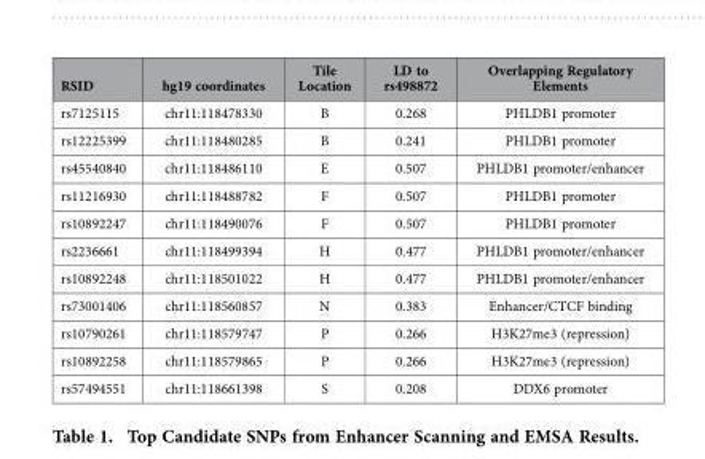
<table><thead><tr><td>RSID</td><td>hg19 coordinates</td><td>Tile Location</td><td>LD to rs498872</td><td>Overlapping Regulatory Elements</td></tr></thead><tbody><tr><td>rs7125115</td><td>chr11:118478330</td><td>B</td><td>0.268</td><td>PHLDB1 promoter</td></tr><tr><td>rs12225399</td><td>chr11:118480285</td><td>B</td><td>0.241</td><td>PHLDB1 promoter</td></tr><tr><td>rs45540840</td><td>chr11:118486110</td><td>E</td><td>0.507</td><td>PHLDB1 promoter/enhancer</td></tr><tr><td>rs11216930</td><td>chr11:118488782</td><td>F</td><td>0.507</td><td>PHLDB1 promoter</td></tr><tr><td>rs10892247</td><td>chr11:118490076</td><td>F</td><td>0.507</td><td>PHLDB1 promoter</td></tr><tr><td>rs2236661</td><td>chr11:118499394</td><td>H</td><td>0.477</td><td>PHLDB1 promoter/enhancer</td></tr><tr><td>rs10892248</td><td>chr11:118501022</td><td>H</td><td>0.477</td><td>PHLDB1 promoter/enhancer</td></tr><tr><td>rs73001406</td><td>chr11:118560857</td><td>N</td><td>0.383</td><td>Enhancer/CTCF binding</td></tr><tr><td>rs10790261</td><td>chr11:118579747</td><td>P</td><td>0.266</td><td>H3K27me3 (repression)</td></tr><tr><td>rs10892258</td><td>chr11:118579865</td><td>P</td><td>0.266</td><td>H3K27me3 (repression)</td></tr><tr><td>rs57494551</td><td>chr11:118661398</td><td>S</td><td>0.208</td><td>DDX6 promoter</td></tr></tbody></table>